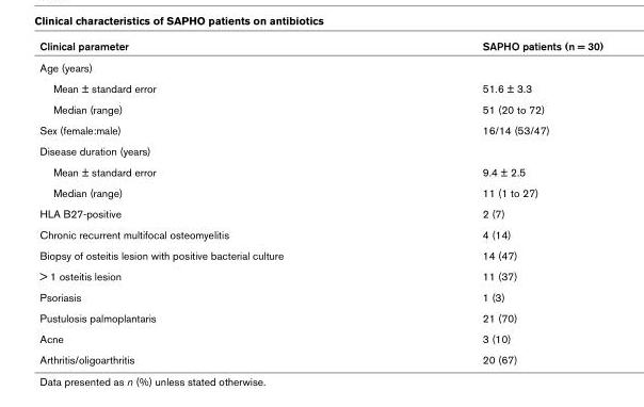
<table><thead><tr><td>Clinical parameter</td><td>SAPHO patients (n = 30)</td></tr></thead><tbody><tr><td colspan="2">Age (years)</td></tr><tr><td>Mean ± standard error</td><td>51.6 ± 3.3</td></tr><tr><td>Median (range)</td><td>51 (20 to 72)</td></tr><tr><td>Sex (female:male)</td><td>16/14 (53/47)</td></tr><tr><td colspan="2">Disease duration (years)</td></tr><tr><td>Mean ± standard error</td><td>9.4 ± 2.5</td></tr><tr><td>Median (range)</td><td>11 (1 to 27)</td></tr><tr><td>HLA B27-positive</td><td>2 (7)</td></tr><tr><td>Chronic recurrent multifocal osteomyelitis</td><td>4 (14)</td></tr><tr><td>Biopsy of osteitis lesion with positive bacterial culture</td><td>14 (47)</td></tr><tr><td>&gt; 1 osteitis lesion</td><td>11 (37)</td></tr><tr><td>Psoriasis</td><td>1 (3)</td></tr><tr><td>Pustulosis palmoplantaris</td><td>21 (70)</td></tr><tr><td>Acne</td><td>3 (10)</td></tr><tr><td>Arthritis/oligoarthritis</td><td>20 (67)</td></tr></tbody></table>